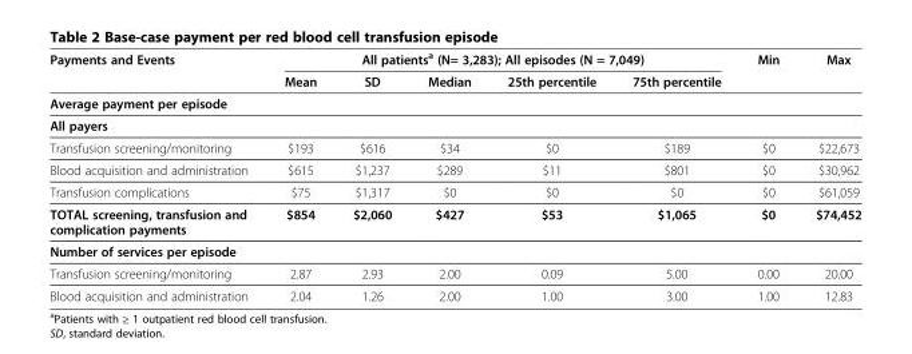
<table><thead><tr><td rowspan="2">Payments and Events</td><td colspan="5">All patients<sup>a</sup> (N= 3,283); All episodes (N = 7,049)</td><td rowspan="2">Min</td><td rowspan="2">Max</td></tr><tr><td>Mean</td><td>SD</td><td>Median</td><td>25th percentile</td><td>75th percentile</td></tr></thead><tbody><tr><td colspan="8">Average payment per episode</td></tr><tr><td colspan="8">All payers</td></tr><tr><td>Transfusion screening/monitoring</td><td>$193</td><td>$616</td><td>$34</td><td>$0</td><td>$189</td><td>$0</td><td>$22,673</td></tr><tr><td>Blood acquisition and administration</td><td>$615</td><td>$1,237</td><td>$289</td><td>$11</td><td>$801</td><td>$0</td><td>$30,962</td></tr><tr><td>Transfusion complications</td><td>$75</td><td>$1,317</td><td>$0</td><td>$0</td><td>$0</td><td>$0</td><td>$61,059</td></tr><tr><td>TOTAL screening, transfusion and complication payments</td><td>$854</td><td>$2,060</td><td>$427</td><td>$53</td><td>$1,065</td><td>$0</td><td>$74,452</td></tr><tr><td colspan="8">Number of services per episode</td></tr><tr><td>Transfusion screening/monitoring</td><td>2.87</td><td>2.93</td><td>2.00</td><td>0.09</td><td>5.00</td><td>0.00</td><td>20.00</td></tr><tr><td>Blood acquisition and administration</td><td>2.04</td><td>1.26</td><td>2.00</td><td>1.00</td><td>3.00</td><td>1.00</td><td>12.83</td></tr></tbody></table>